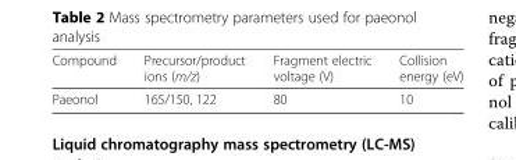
<table><thead><tr><td>Compound</td><td>Precursor/product ions (m/z)</td><td>Fragment electric voltage (V)</td><td>Collision energy (eV)</td></tr></thead><tbody><tr><td>Paeonol</td><td>165/150, 122</td><td>80</td><td>10</td></tr></tbody></table>